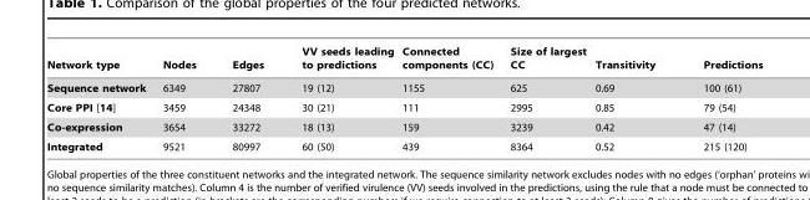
<table><thead><tr><td>Network type</td><td>Nodes</td><td>Edges</td><td>VV seeds leading to predictions</td><td>Connected components (CC)</td><td>Size of largest CC</td><td>Transitivity</td><td>Predictions</td></tr></thead><tbody><tr><td>Sequence network</td><td>6349</td><td>27807</td><td>19 (12)</td><td>1155</td><td>625</td><td>0.69</td><td>100 (61)</td></tr><tr><td>Core PPI [14]</td><td>3459</td><td>24348</td><td>30 (21)</td><td>111</td><td>2995</td><td>0.85</td><td>79 (54)</td></tr><tr><td>Co-expression</td><td>3654</td><td>33272</td><td>18 (13)</td><td>159</td><td>3239</td><td>0.42</td><td>47 (14)</td></tr><tr><td>Integrated</td><td>9521</td><td>80997</td><td>60 (50)</td><td>439</td><td>8364</td><td>0.52</td><td>215 (120)</td></tr></tbody></table>